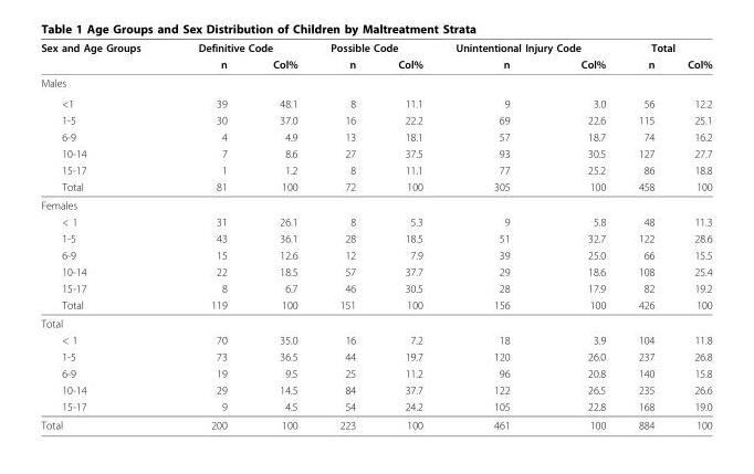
<table><thead><tr><td rowspan="2">Sex and Age Groups</td><td colspan="2">Definitive Code</td><td colspan="2">Possible Code</td><td colspan="2">Unintentional Injury Code</td><td colspan="2">Total</td></tr><tr><td>n</td><td>Col%</td><td>n</td><td>Col%</td><td>n</td><td>Col%</td><td>n</td><td>Col%</td></tr></thead><tbody><tr><td colspan="9">Males</td></tr><tr><td>&lt;1</td><td>39</td><td>48.1</td><td>8</td><td>11.1</td><td>9</td><td>3.0</td><td>56</td><td>12.2</td></tr><tr><td>1-5</td><td>30</td><td>37.0</td><td>16</td><td>22.2</td><td>69</td><td>22.6</td><td>115</td><td>25.1</td></tr><tr><td>6-9</td><td>4</td><td>4.9</td><td>13</td><td>18.1</td><td>57</td><td>18.7</td><td>74</td><td>16.2</td></tr><tr><td>10-14</td><td>7</td><td>8.6</td><td>27</td><td>37.5</td><td>93</td><td>30.5</td><td>127</td><td>27.7</td></tr><tr><td>15-17</td><td>1</td><td>1.2</td><td>8</td><td>11.1</td><td>77</td><td>25.2</td><td>86</td><td>18.8</td></tr><tr><td>Total</td><td>81</td><td>100</td><td>72</td><td>100</td><td>305</td><td>100</td><td>458</td><td>100</td></tr><tr><td colspan="9">Females</td></tr><tr><td>&lt; 1</td><td>31</td><td>26.1</td><td>8</td><td>5.3</td><td>9</td><td>5.8</td><td>48</td><td>11.3</td></tr><tr><td>1-5</td><td>43</td><td>36.1</td><td>28</td><td>18.5</td><td>51</td><td>32.7</td><td>122</td><td>28.6</td></tr><tr><td>6-9</td><td>15</td><td>12.6</td><td>12</td><td>7.9</td><td>39</td><td>25.0</td><td>66</td><td>15.5</td></tr><tr><td>10-14</td><td>22</td><td>18.5</td><td>57</td><td>37.7</td><td>29</td><td>18.6</td><td>108</td><td>25.4</td></tr><tr><td>15-17</td><td>8</td><td>6.7</td><td>46</td><td>30.5</td><td>28</td><td>17.9</td><td>82</td><td>19.2</td></tr><tr><td>Total</td><td>119</td><td>100</td><td>151</td><td>100</td><td>156</td><td>100</td><td>426</td><td>100</td></tr><tr><td colspan="9">Total</td></tr><tr><td>&lt; 1</td><td>70</td><td>35.0</td><td>16</td><td>7.2</td><td>18</td><td>3.9</td><td>104</td><td>11.8</td></tr><tr><td>1-5</td><td>73</td><td>36.5</td><td>44</td><td>19.7</td><td>120</td><td>26.0</td><td>237</td><td>26.8</td></tr><tr><td>6-9</td><td>19</td><td>9.5</td><td>25</td><td>11.2</td><td>96</td><td>20.8</td><td>140</td><td>15.8</td></tr><tr><td>10-14</td><td>29</td><td>14.5</td><td>84</td><td>37.7</td><td>122</td><td>26.5</td><td>235</td><td>26.6</td></tr><tr><td>15-17</td><td>9</td><td>4.5</td><td>54</td><td>24.2</td><td>105</td><td>22.8</td><td>168</td><td>19.0</td></tr><tr><td>Total</td><td>200</td><td>100</td><td>223</td><td>100</td><td>461</td><td>100</td><td>884</td><td>100</td></tr></tbody></table>